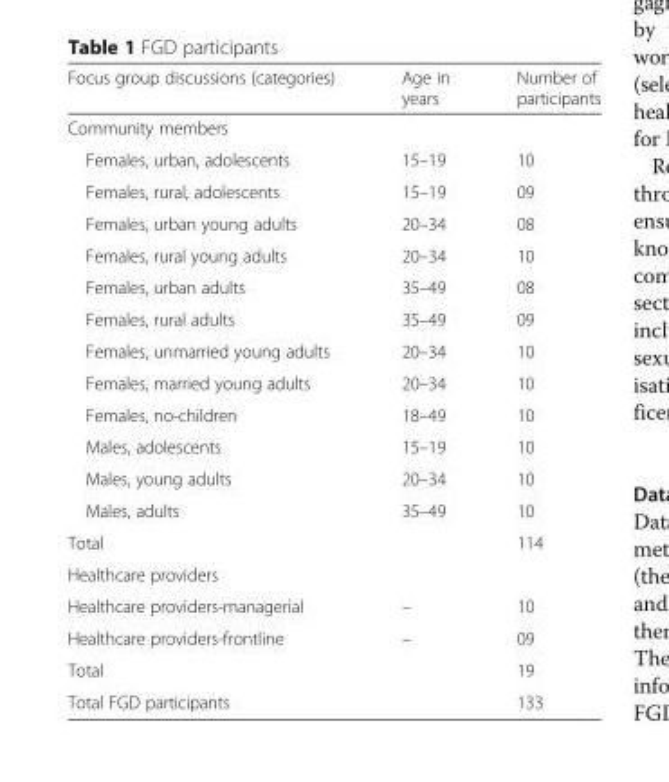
<table><thead><tr><td>Focus group discussions (categories)</td><td>Age in years</td><td>Number of participants</td></tr></thead><tbody><tr><td colspan="3">Community members</td></tr><tr><td>Females, urban, adolescents</td><td>15–19</td><td>10</td></tr><tr><td>Females, rural, adolescents</td><td>15–19</td><td>09</td></tr><tr><td>Females, urban young adults</td><td>20–34</td><td>08</td></tr><tr><td>Females, rural young adults</td><td>20–34</td><td>10</td></tr><tr><td>Females, urban adults</td><td>35–49</td><td>08</td></tr><tr><td>Females, rural adults</td><td>35–49</td><td>09</td></tr><tr><td>Females, unmarried young adults</td><td>20–34</td><td>10</td></tr><tr><td>Females, married young adults</td><td>20–34</td><td>10</td></tr><tr><td>Females, no-children</td><td>18–49</td><td>10</td></tr><tr><td>Males, adolescents</td><td>15–19</td><td>10</td></tr><tr><td>Males, young adults</td><td>20–34</td><td>10</td></tr><tr><td>Males, adults</td><td>35–49</td><td>10</td></tr><tr><td>Total</td><td></td><td>114</td></tr><tr><td colspan="3">Healthcare providers</td></tr><tr><td>Healthcare providers-managerial</td><td>–</td><td>10</td></tr><tr><td>Healthcare providers-frontline</td><td>–</td><td>09</td></tr><tr><td>Total</td><td></td><td>19</td></tr><tr><td>Total FGD participants</td><td></td><td>133</td></tr></tbody></table>